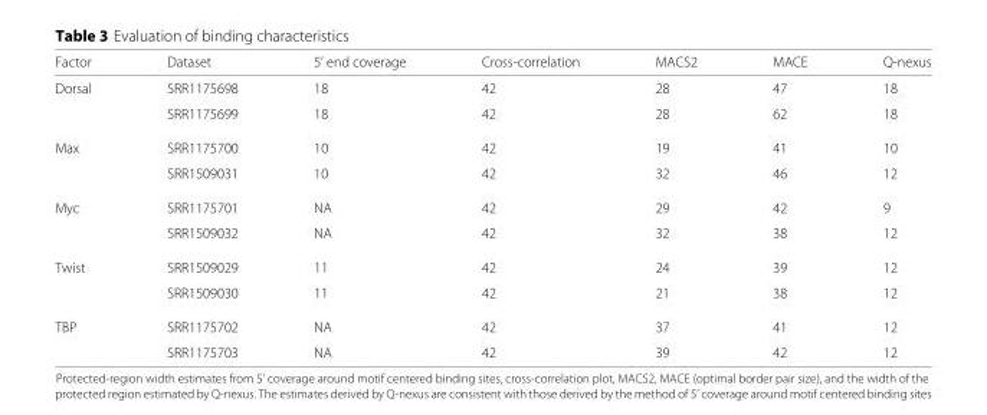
<table><thead><tr><td>Factor</td><td>Dataset</td><td>5’ end coverage</td><td>Cross-correlation</td><td>MACS2</td><td>MACE</td><td>Q-nexus</td></tr></thead><tbody><tr><td rowspan="2">Dorsal</td><td>SRR1175698</td><td>18</td><td>42</td><td>28</td><td>47</td><td>18</td></tr><tr><td>SRR1175699</td><td>18</td><td>42</td><td>28</td><td>62</td><td>18</td></tr><tr><td rowspan="2">Max</td><td>SRR1175700</td><td>10</td><td>42</td><td>19</td><td>41</td><td>10</td></tr><tr><td>SRR1509031</td><td>10</td><td>42</td><td>32</td><td>46</td><td>12</td></tr><tr><td rowspan="2">Myc</td><td>SRR1175701</td><td>NA</td><td>42</td><td>29</td><td>42</td><td>9</td></tr><tr><td>SRR1509032</td><td>NA</td><td>42</td><td>32</td><td>38</td><td>12</td></tr><tr><td rowspan="2">Twist</td><td>SRR1509029</td><td>11</td><td>42</td><td>24</td><td>39</td><td>12</td></tr><tr><td>SRR1509030</td><td>11</td><td>42</td><td>21</td><td>38</td><td>12</td></tr><tr><td rowspan="2">TBP</td><td>SRR1175702</td><td>NA</td><td>42</td><td>37</td><td>41</td><td>12</td></tr><tr><td>SRR1175703</td><td>NA</td><td>42</td><td>39</td><td>42</td><td>12</td></tr></tbody></table>